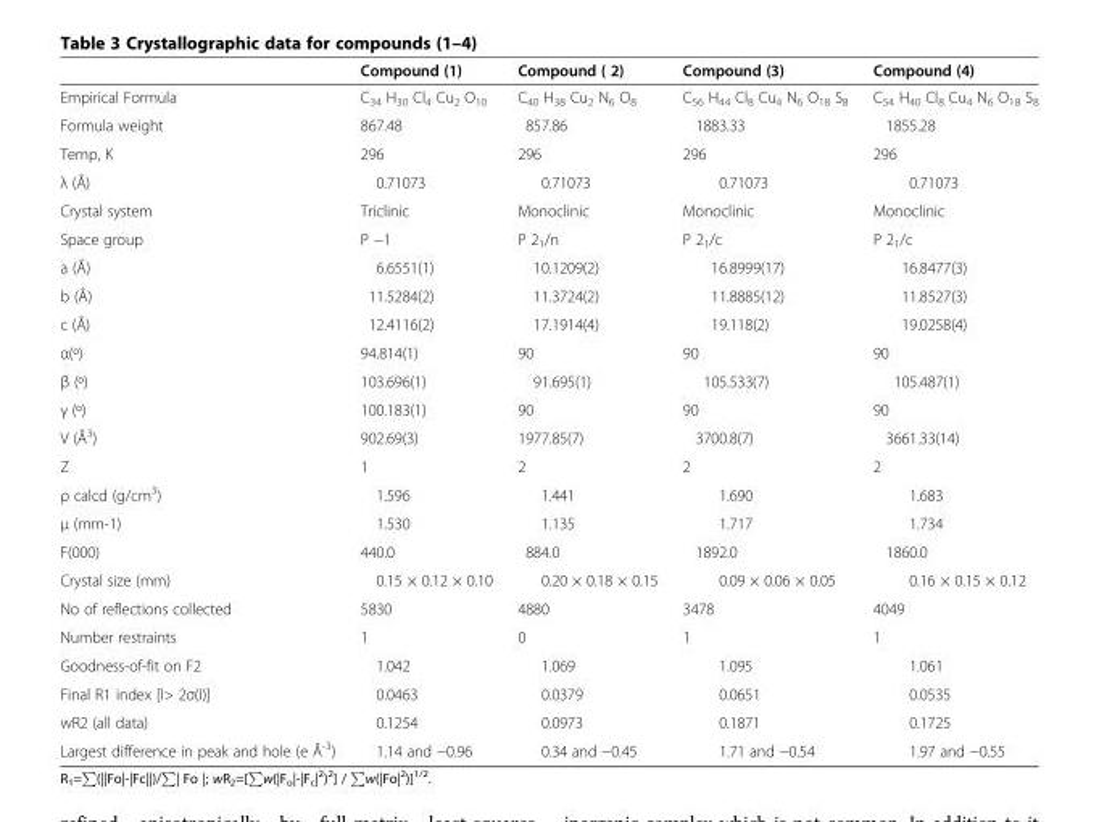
<table><thead><tr><td></td><td>Compound (1)</td><td>Compound ( 2)</td><td>Compound (3)</td><td>Compound (4)</td></tr></thead><tbody><tr><td>Empirical Formula</td><td>C<sub>34</sub> H<sub>30</sub> Cl<sub>4</sub> Cu<sub>2</sub> O<sub>10</sub></td><td>C<sub>40</sub> H<sub>38</sub> Cu<sub>2</sub> N<sub>6</sub> O<sub>8</sub></td><td>C<sub>56</sub> H<sub>44</sub> Cl<sub>8</sub> Cu<sub>4</sub> N<sub>6</sub> O<sub>18</sub> S<sub>8</sub></td><td>C<sub>54</sub> H<sub>40</sub> Cl<sub>8</sub> Cu<sub>4</sub> N<sub>6</sub> O<sub>18</sub> S<sub>8</sub></td></tr><tr><td>Formula weight</td><td>867.48</td><td>857.86</td><td>1883.33</td><td>1855.28</td></tr><tr><td>Temp, K</td><td>296</td><td>296</td><td>296</td><td>296</td></tr><tr><td>λ (Å)</td><td>0.71073</td><td>0.71073</td><td>0.71073</td><td>0.71073</td></tr><tr><td>Crystal system</td><td>Triclinic</td><td>Monoclinic</td><td>Monoclinic</td><td>Monoclinic</td></tr><tr><td>Space group</td><td>P −1</td><td>P 2<sub>1</sub>/n</td><td>P 2<sub>1</sub>/c</td><td>P 2<sub>1</sub>/c</td></tr><tr><td>a (Å)</td><td>6.6551(1)</td><td>10.1209(2)</td><td>16.8999(17)</td><td>16.8477(3)</td></tr><tr><td>b (Å)</td><td>11.5284(2)</td><td>11.3724(2)</td><td>11.8885(12)</td><td>11.8527(3)</td></tr><tr><td>c (Å)</td><td>12.4116(2)</td><td>17.1914(4)</td><td>19.118(2)</td><td>19.0258(4)</td></tr><tr><td>α(º)</td><td>94.814(1)</td><td>90</td><td>90</td><td>90</td></tr><tr><td>β (º)</td><td>103.696(1)</td><td>91.695(1)</td><td>105.533(7)</td><td>105.487(1)</td></tr><tr><td>γ (º)</td><td>100.183(1)</td><td>90</td><td>90</td><td>90</td></tr><tr><td>V (Å<sup>3</sup>)</td><td>902.69(3)</td><td>1977.85(7)</td><td>3700.8(7)</td><td>3661.33(14)</td></tr><tr><td>Z</td><td>1</td><td>2</td><td>2</td><td>2</td></tr><tr><td>ρ calcd (g/cm<sup>3</sup>)</td><td>1.596</td><td>1.441</td><td>1.690</td><td>1.683</td></tr><tr><td>μ (mm-1)</td><td>1.530</td><td>1.135</td><td>1.717</td><td>1.734</td></tr><tr><td>F(000)</td><td>440.0</td><td>884.0</td><td>1892.0</td><td>1860.0</td></tr><tr><td>Crystal size (mm)</td><td>0.15 × 0.12 × 0.10</td><td>0.20 × 0.18 × 0.15</td><td>0.09 × 0.06 × 0.05</td><td>0.16 × 0.15 × 0.12</td></tr><tr><td>No of reflections collected</td><td>5830</td><td>4880</td><td>3478</td><td>4049</td></tr><tr><td>Number restraints</td><td>1</td><td>0</td><td>1</td><td>1</td></tr><tr><td>Goodness-of-fit on F2</td><td>1.042</td><td>1.069</td><td>1.095</td><td>1.061</td></tr><tr><td>Final R1 index [I&gt; 2σ(I)]</td><td>0.0463</td><td>0.0379</td><td>0.0651</td><td>0.0535</td></tr><tr><td>wR2 (all data)</td><td>0.1254</td><td>0.0973</td><td>0.1871</td><td>0.1725</td></tr><tr><td>Largest difference in peak and hole (e Å<sup>-3</sup>)</td><td>1.14 and −0.96</td><td>0.34 and −0.45</td><td>1.71 and −0.54</td><td>1.97 and −0.55</td></tr></tbody></table>